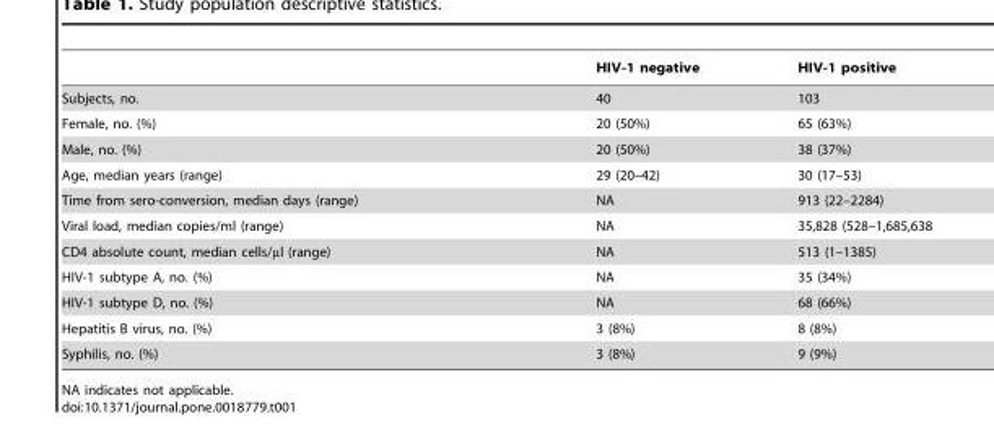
<table><thead><tr><td></td><td>HIV-1 negative</td><td>HIV-1 positive</td></tr></thead><tbody><tr><td>Subjects, no.</td><td>40</td><td>103</td></tr><tr><td>Female, no. (%)</td><td>20 (50%)</td><td>65 (63%)</td></tr><tr><td>Male, no. (%)</td><td>20 (50%)</td><td>38 (37%)</td></tr><tr><td>Age, median years (range)</td><td>29 (20–42)</td><td>30 (17–53)</td></tr><tr><td>Time from sero-conversion, median days (range)</td><td>NA</td><td>913 (22–2284)</td></tr><tr><td>Viral load, median copies/ml (range)</td><td>NA</td><td>35,828 (528–1,685,638</td></tr><tr><td>CD4 absolute count, median cells/µl (range)</td><td>NA</td><td>513 (1–1385)</td></tr><tr><td>HIV-1 subtype A, no. (%)</td><td>NA</td><td>35 (34%)</td></tr><tr><td>HIV-1 subtype D, no. (%)</td><td>NA</td><td>68 (66%)</td></tr><tr><td>Hepatitis B virus, no. (%)</td><td>3 (8%)</td><td>8 (8%)</td></tr><tr><td>Syphilis, no. (%)</td><td>3 (8%)</td><td>9 (9%)</td></tr></tbody></table>